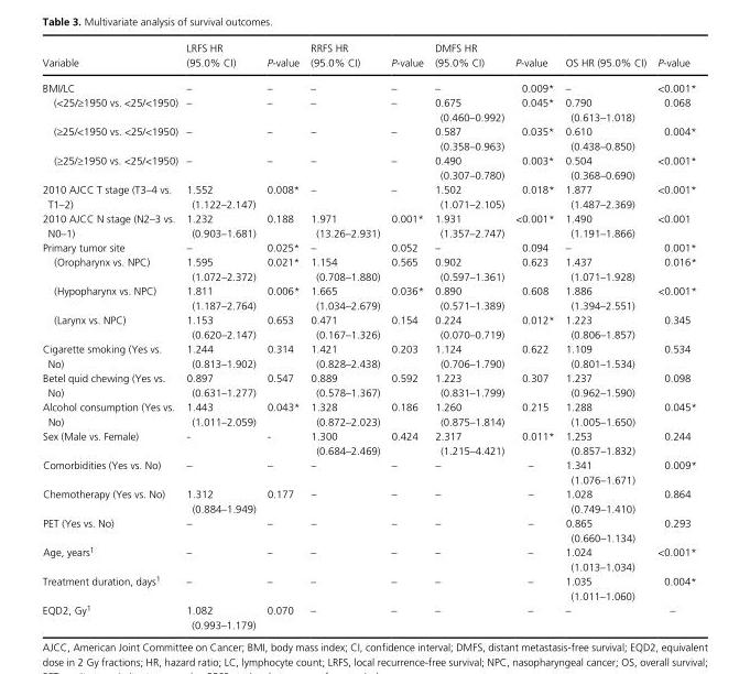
<table><thead><tr><td>Variable</td><td>LRFS HR (95.0% CI)</td><td>P- value</td><td>RRFS HR (95.0% CI)</td><td>P- value</td><td>DMFS HR (95.0% CI)</td><td>P- value</td><td>OS HR (95.0% CI)</td><td>P- value</td></tr></thead><tbody><tr><td>BMI/LC</td><td>–</td><td>–</td><td>–</td><td>–</td><td>–</td><td>0.009*</td><td>–</td><td>&lt;0.001*</td></tr><tr><td>(&lt;25/≥1950 vs. &lt;25/&lt;1950)</td><td>–</td><td>–</td><td>–</td><td>–</td><td>0.675 (0.460–0.992)</td><td>0.045*</td><td>0.790 (0.613–1.018)</td><td>0.068</td></tr><tr><td>(≥25/&lt;1950 vs. &lt;25/&lt;1950)</td><td>–</td><td>–</td><td>–</td><td>–</td><td>0.587 (0.358–0.963)</td><td>0.035*</td><td>0.610 (0.438–0.850)</td><td>0.004*</td></tr><tr><td>(≥25/≥1950 vs. &lt;25/&lt;1950)</td><td>–</td><td>–</td><td>–</td><td>–</td><td>0.490 (0.307–0.780)</td><td>0.003*</td><td>0.504 (0.368–0.690)</td><td>&lt;0.001*</td></tr><tr><td>2010 AJCC T stage (T3–4 vs. T1–2)</td><td>1.552 (1.122–2.147)</td><td>0.008*</td><td>–</td><td>–</td><td>1.502 (1.071–2.105)</td><td>0.018*</td><td>1.877 (1.487–2.369)</td><td>&lt;0.001*</td></tr><tr><td>2010 AJCC N stage (N2–3 vs. N0–1)</td><td>1.232 (0.903–1.681)</td><td>0.188</td><td>1.971 (13.26–2.931)</td><td>0.001*</td><td>1.931 (1.357–2.747)</td><td>&lt;0.001*</td><td>1.490 (1.191–1.866)</td><td>&lt;0.001</td></tr><tr><td>Primary tumor site</td><td>–</td><td>0.025*</td><td>–</td><td>0.052</td><td>–</td><td>0.094</td><td>–</td><td>0.001*</td></tr><tr><td>(Oropharynx vs. NPC)</td><td>1.595 (1.072–2.372)</td><td>0.021*</td><td>1.154 (0.708–1.880)</td><td>0.565</td><td>0.902 (0.597–1.361)</td><td>0.623</td><td>1.437 (1.071–1.928)</td><td>0.016*</td></tr><tr><td>(Hypopharynx vs. NPC)</td><td>1.811 (1.187–2.764)</td><td>0.006*</td><td>1.665 (1.034–2.679)</td><td>0.036*</td><td>0.890 (0.571–1.389)</td><td>0.608</td><td>1.886 (1.394–2.551)</td><td>&lt;0.001*</td></tr><tr><td>(Larynx vs. NPC)</td><td>1.153 (0.620–2.147)</td><td>0.653</td><td>0.471 (0.167–1.326)</td><td>0.154</td><td>0.224 (0.070–0.719)</td><td>0.012*</td><td>1.223 (0.806–1.857)</td><td>0.345</td></tr><tr><td>Cigarette smoking (Yes vs. No)</td><td>1.244 (0.813–1.902)</td><td>0.314</td><td>1.421 (0.828–2.438)</td><td>0.203</td><td>1.124 (0.706–1.790)</td><td>0.622</td><td>1.109 (0.801–1.534)</td><td>0.534</td></tr><tr><td>Betel quid chewing (Yes vs. No)</td><td>0.897 (0.631–1.277)</td><td>0.547</td><td>0.889 (0.578–1.367)</td><td>0.592</td><td>1.223 (0.831–1.799)</td><td>0.307</td><td>1.237 (0.962–1.590)</td><td>0.098</td></tr><tr><td>Alcohol consumption (Yes vs. No)</td><td>1.443 (1.011–2.059)</td><td>0.043*</td><td>1.328 (0.872–2.023)</td><td>0.186</td><td>1.260 (0.875–1.814)</td><td>0.215</td><td>1.288 (1.005–1.650)</td><td>0.045*</td></tr><tr><td>Sex (Male vs. Female)</td><td>-</td><td>-</td><td>1.300 (0.684–2.469)</td><td>0.424</td><td>2.317 (1.215–4.421)</td><td>0.011*</td><td>1.253 (0.857–1.832)</td><td>0.244</td></tr><tr><td>Comorbidities (Yes vs. No)</td><td>–</td><td>–</td><td>–</td><td>–</td><td>–</td><td>–</td><td>1.341 (1.076–1.671)</td><td>0.009*</td></tr><tr><td>Chemotherapy (Yes vs. No)</td><td>1.312 (0.884–1.949)</td><td>0.177</td><td>–</td><td>–</td><td>–</td><td>–</td><td>1.028 (0.749–1.410)</td><td>0.864</td></tr><tr><td>PET (Yes vs. No)</td><td>–</td><td>–</td><td>–</td><td>–</td><td>–</td><td>–</td><td>0.865 (0.660–1.134)</td><td>0.293</td></tr><tr><td>Age, years1</td><td>–</td><td>–</td><td>–</td><td>–</td><td>–</td><td>–</td><td>1.024 (1.013–1.034)</td><td>&lt;0.001*</td></tr><tr><td>Treatment duration, days1</td><td>–</td><td>–</td><td>–</td><td>–</td><td>–</td><td>–</td><td>1.035 (1.011–1.060)</td><td>0.004*</td></tr><tr><td>EQD2, Gy1</td><td>1.082 (0.993–1.179)</td><td>0.070</td><td>–</td><td>–</td><td>–</td><td>–</td><td>–</td><td>–</td></tr></tbody></table>